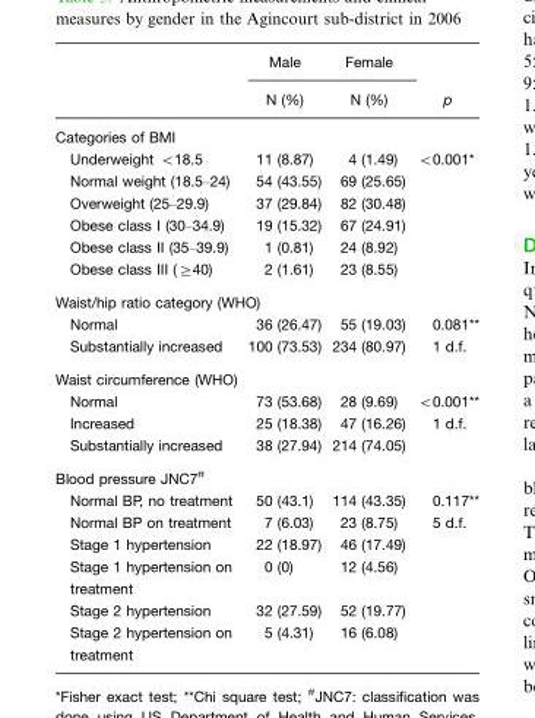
<table><thead><tr><td rowspan="2"></td><td rowspan="2">Male N (%)</td><td rowspan="2">Female N (%)</td><td rowspan="2">p</td></tr><tr></tr></thead><tbody><tr><td colspan="4">Categories of BMI</td></tr><tr><td>Underweight &lt;18.5</td><td>11 (8.87)</td><td>4 (1.49)</td><td>&lt;0.001*</td></tr><tr><td>Normal weight (18.5–24)</td><td>54 (43.55)</td><td>69 (25.65)</td><td></td></tr><tr><td>Overweight (25–29.9)</td><td>37 (29.84)</td><td>82 (30.48)</td><td></td></tr><tr><td>Obese class I (30–34.9)</td><td>19 (15.32)</td><td>67 (24.91)</td><td></td></tr><tr><td>Obese class II (35–39.9)</td><td>1 (0.81)</td><td>24 (8.92)</td><td></td></tr><tr><td>Obese class III (≥40)</td><td>2 (1.61)</td><td>23 (8.55)</td><td></td></tr><tr><td colspan="4">Waist/hip ratio category (WHO)</td></tr><tr><td>Normal</td><td>36 (26.47)</td><td>55 (19.03)</td><td>0.081**</td></tr><tr><td>Substantially increased</td><td>100 (73.53)</td><td>234 (80.97)</td><td>1 d.f.</td></tr><tr><td colspan="4">Waist circumference (WHO)</td></tr><tr><td>Normal</td><td>73 (53.68)</td><td>28 (9.69)</td><td>&lt;0.001**</td></tr><tr><td>Increased</td><td>25 (18.38)</td><td>47 (16.26)</td><td>1 d.f.</td></tr><tr><td>Substantially increased</td><td>38 (27.94)</td><td>214 (74.05)</td><td></td></tr><tr><td colspan="4">Blood pressure JNC7#</td></tr><tr><td>Normal BP, no treatment</td><td>50 (43.1)</td><td>114 (43.35)</td><td>0.117**</td></tr><tr><td>Normal BP on treatment</td><td>7 (6.03)</td><td>23 (8.75)</td><td>5 d.f.</td></tr><tr><td>Stage 1 hypertension</td><td>22 (18.97)</td><td>46 (17.49)</td><td></td></tr><tr><td>Stage 1 hypertension on treatment</td><td>0 (0)</td><td>12 (4.56)</td><td></td></tr><tr><td>Stage 2 hypertension</td><td>32 (27.59)</td><td>52 (19.77)</td><td></td></tr><tr><td>Stage 2 hypertension on treatment</td><td>5 (4.31)</td><td>16 (6.08)</td><td></td></tr></tbody></table>